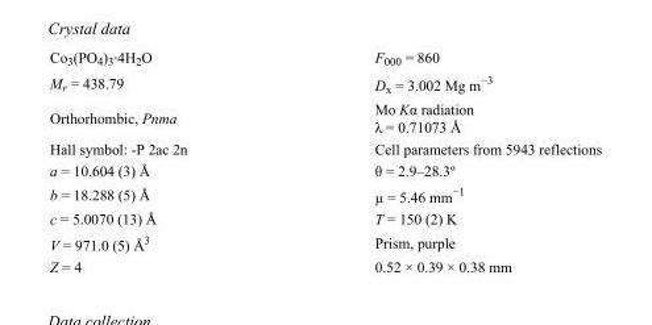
<table><tbody><tr><td>Co<sub>3</sub>(PO<sub>4</sub>)<sub>3</sub>·4H<sub>2</sub>O</td><td>F000 = 860</td></tr><tr><td>M<sub>r</sub> = 438.79</td><td>D<sub>x</sub> = 3.002 Mg m<sup>−3</sup></td></tr><tr><td>Orthorhombic, Pnma</td><td>Mo Kα radiation λ = 0.71073 Å</td></tr><tr><td>Hall symbol: -P 2ac 2n</td><td>Cell parameters from 5943 reflections</td></tr><tr><td>a = 10.604 (3) Å</td><td>θ = 2.9–28.3º</td></tr><tr><td>b = 18.288 (5) Å</td><td>µ = 5.46 mm<sup>−1</sup></td></tr><tr><td>c = 5.0070 (13) Å</td><td>T = 150 (2) K</td></tr><tr><td>V = 971.0 (5) Å<sup>3</sup></td><td>Prism, purple</td></tr><tr><td>Z = 4</td><td>0.52 × 0.39 × 0.38 mm</td></tr></tbody></table>